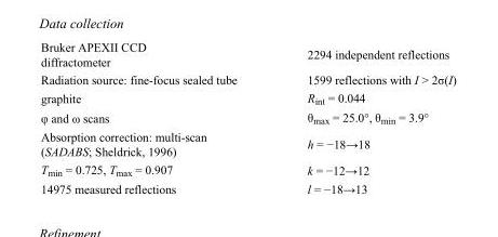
<table><tbody><tr><td>Bruker APEXII CCD diffractometer</td><td>2294 independent reflections</td></tr><tr><td>Radiation source: fine-focus sealed tube</td><td>1599 reflections with I &gt; 2σ(I)</td></tr><tr><td>graphite</td><td>R<sub>int</sub> = 0.044</td></tr><tr><td>φ and ω scans</td><td>θ<sub>max</sub> = 25.0°, θ<sub>min</sub> = 3.9°</td></tr><tr><td>Absorption correction: multi-scan (SADABS; Sheldrick, 1996)</td><td>h = −18→18</td></tr><tr><td>T<sub>min</sub> = 0.725, T<sub>max</sub> = 0.907</td><td>k = −12→12</td></tr><tr><td>14975 measured reflections</td><td>l = −18→13</td></tr></tbody></table>